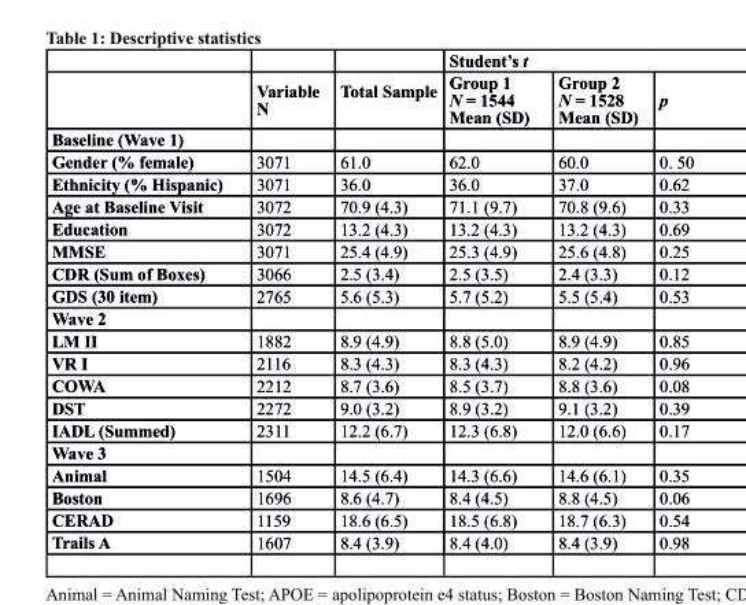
<table><thead><tr><td rowspan="2"></td><td rowspan="2">Variable N</td><td rowspan="2">total sample</td><td colspan="3">student’s t</td></tr><tr><td>Group 1 N = 1544 Mean (sD)</td><td>Group 2 N = 1528 Mean (sD)</td><td>p</td></tr></thead><tbody><tr><td colspan="6">baseline (Wave 1)</td></tr><tr><td>Gender (% female)</td><td>3071</td><td>61.0</td><td>62.0</td><td>60.0</td><td>0. 50</td></tr><tr><td>Ethnicity (% Hispanic)</td><td>3071</td><td>36.0</td><td>36.0</td><td>37.0</td><td>0.62</td></tr><tr><td>Age at baseline Visit</td><td>3072</td><td>70.9 (4.3)</td><td>71.1 (9.7)</td><td>70.8 (9.6)</td><td>0.33</td></tr><tr><td>Education</td><td>3072</td><td>13.2 (4.3)</td><td>13.2 (4.3)</td><td>13.2 (4.3)</td><td>0.69</td></tr><tr><td>MMsE</td><td>3071</td><td>25.4 (4.9)</td><td>25.3 (4.9)</td><td>25.6 (4.8)</td><td>0.25</td></tr><tr><td>cDr (sum of boxes)</td><td>3066</td><td>2.5 (3.4)</td><td>2.5 (3.5)</td><td>2.4 (3.3)</td><td>0.12</td></tr><tr><td>GDs (30 item)</td><td>2765</td><td>5.6 (5.3)</td><td>5.7 (5.2)</td><td>5.5 (5.4)</td><td>0.53</td></tr><tr><td colspan="6">Wave 2</td></tr><tr><td>LM II</td><td>1882</td><td>8.9 (4.9)</td><td>8.8 (5.0)</td><td>8.9 (4.9)</td><td>0.85</td></tr><tr><td>Vr I</td><td>2116</td><td>8.3 (4.3)</td><td>8.3 (4.3)</td><td>8.2 (4.2)</td><td>0.96</td></tr><tr><td>cOWA</td><td>2212</td><td>8.7 (3.6)</td><td>8.5 (3.7)</td><td>8.8 (3.6)</td><td>0.08</td></tr><tr><td>Dst</td><td>2272</td><td>9.0 (3.2)</td><td>8.9 (3.2)</td><td>9.1 (3.2)</td><td>0.39</td></tr><tr><td>IADL (summed)</td><td>2311</td><td>12.2 (6.7)</td><td>12.3 (6.8)</td><td>12.0 (6.6)</td><td>0.17</td></tr><tr><td colspan="6">Wave 3</td></tr><tr><td>Animal</td><td>1504</td><td>14.5 (6.4)</td><td>14.3 (6.6)</td><td>14.6 (6.1)</td><td>0.35</td></tr><tr><td>boston</td><td>1696</td><td>8.6 (4.7)</td><td>8.4 (4.5)</td><td>8.8 (4.5)</td><td>0.06</td></tr><tr><td>cErAD</td><td>1159</td><td>18.6 (6.5)</td><td>18.5 (6.8)</td><td>18.7 (6.3)</td><td>0.54</td></tr><tr><td>trails A</td><td>1607</td><td>8.4 (3.9)</td><td>8.4 (4.0)</td><td>8.4 (3.9)</td><td>0.98</td></tr></tbody></table>